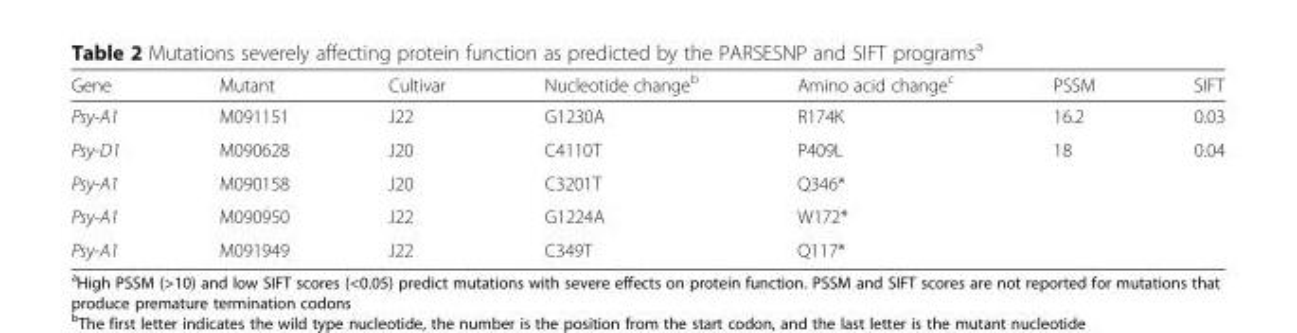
<table><thead><tr><td>Gene</td><td>Mutant</td><td>Cultivar</td><td>Nucleotide change<sup>b</sup></td><td>Amino acid change<sup>c</sup></td><td>PSSM</td><td>SIFT</td></tr></thead><tbody><tr><td>Psy-A1</td><td>M091151</td><td>J22</td><td>G1230A</td><td>R174K</td><td>16.2</td><td>0.03</td></tr><tr><td>Psy-D1</td><td>M090628</td><td>J20</td><td>C4110T</td><td>P409L</td><td>18</td><td>0.04</td></tr><tr><td>Psy-A1</td><td>M090158</td><td>J20</td><td>C3201T</td><td>Q346*</td><td></td><td></td></tr><tr><td>Psy-A1</td><td>M090950</td><td>J22</td><td>G1224A</td><td>W172*</td><td></td><td></td></tr><tr><td>Psy-A1</td><td>M091949</td><td>J22</td><td>C349T</td><td>Q117*</td><td></td><td></td></tr></tbody></table>